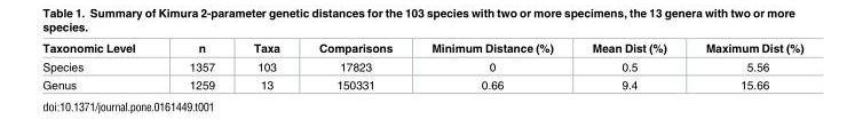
<table><thead><tr><td>Taxonomic Level</td><td>n</td><td>Taxa</td><td>Comparisons</td><td>Minimum Distance (%)</td><td>Mean Dist (%)</td><td>Maximum Dist (%)</td></tr></thead><tbody><tr><td>Species</td><td>1357</td><td>103</td><td>17823</td><td>0</td><td>0.5</td><td>5.56</td></tr><tr><td>Genus</td><td>1259</td><td>13</td><td>150331</td><td>0.66</td><td>9.4</td><td>15.66</td></tr></tbody></table>